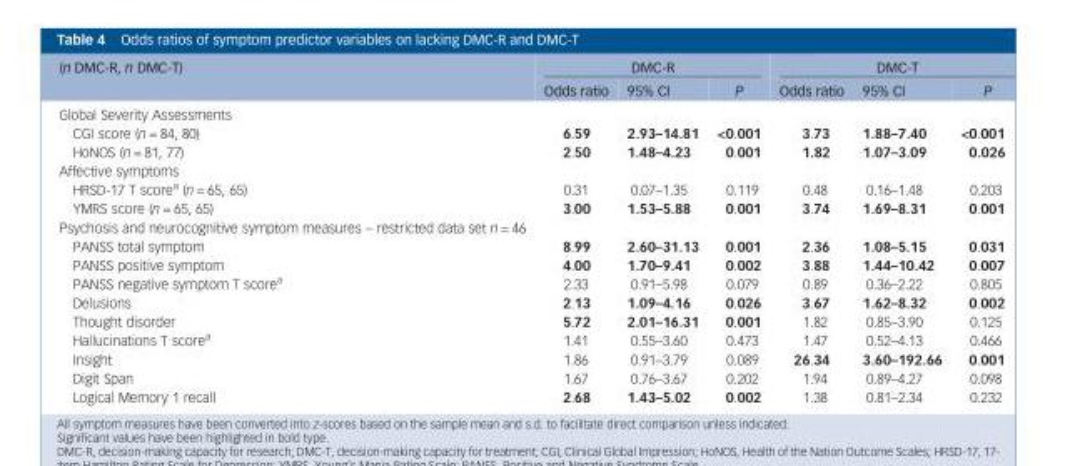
<table><thead><tr><td rowspan="2">(n DMC-R, n DMC-T)</td><td colspan="3">DMC-R</td><td colspan="3">DMC-T</td></tr><tr><td>Odds ratio</td><td>95% CI</td><td>P</td><td>Odds ratio</td><td>95% CI</td><td>P</td></tr></thead><tbody><tr><td colspan="7">Global Severity Assessments</td></tr><tr><td>CGI score (n = 84, 80)</td><td>6.59</td><td>2.93–14.81</td><td>&lt;0.001</td><td>3.73</td><td>1.88–7.40</td><td>&lt;0.001</td></tr><tr><td>HoNOS (n = 81, 77)</td><td>2.50</td><td>1.48–4.23</td><td>0.001</td><td>1.82</td><td>1.07–3.09</td><td>0.026</td></tr><tr><td colspan="7">Affective symptoms</td></tr><tr><td>HRSD-17 T score<sup>a</sup> (n = 65, 65)</td><td>0.31</td><td>0.07–1.35</td><td>0.119</td><td>0.48</td><td>0.16–1.48</td><td>0.203</td></tr><tr><td>YMRS score (n = 65, 65)</td><td>3.00</td><td>1.53–5.88</td><td>0.001</td><td>3.74</td><td>1.69–8.31</td><td>0.001</td></tr><tr><td colspan="7">Psychosis and neurocognitive symptom measures – restricted data set n = 46</td></tr><tr><td>PANSS total symptom</td><td>8.99</td><td>2.60–31.13</td><td>0.001</td><td>2.36</td><td>1.08–5.15</td><td>0.031</td></tr><tr><td>PANSS positive symptom</td><td>4.00</td><td>1.70–9.41</td><td>0.002</td><td>3.88</td><td>1.44–10.42</td><td>0.007</td></tr><tr><td>PANSS negative symptom T score<sup>a</sup></td><td>2.33</td><td>0.91–5.98</td><td>0.079</td><td>0.89</td><td>0.36–2.22</td><td>0.805</td></tr><tr><td>Delusions</td><td>2.13</td><td>1.09–4.16</td><td>0.026</td><td>3.67</td><td>1.62–8.32</td><td>0.002</td></tr><tr><td>Thought disorder</td><td>5.72</td><td>2.01–16.31</td><td>0.001</td><td>1.82</td><td>0.85–3.90</td><td>0.125</td></tr><tr><td>Hallucinations T score<sup>a</sup></td><td>1.41</td><td>0.55–3.60</td><td>0.473</td><td>1.47</td><td>0.52–4.13</td><td>0.466</td></tr><tr><td>Insight</td><td>1.86</td><td>0.91–3.79</td><td>0.089</td><td>26.34</td><td>3.60–192.66</td><td>0.001</td></tr><tr><td>Digit Span</td><td>1.67</td><td>0.76–3.67</td><td>0.202</td><td>1.94</td><td>0.89–4.27</td><td>0.098</td></tr><tr><td>Logical Memory 1 recall</td><td>2.68</td><td>1.43–5.02</td><td>0.002</td><td>1.38</td><td>0.81–2.34</td><td>0.232</td></tr></tbody></table>